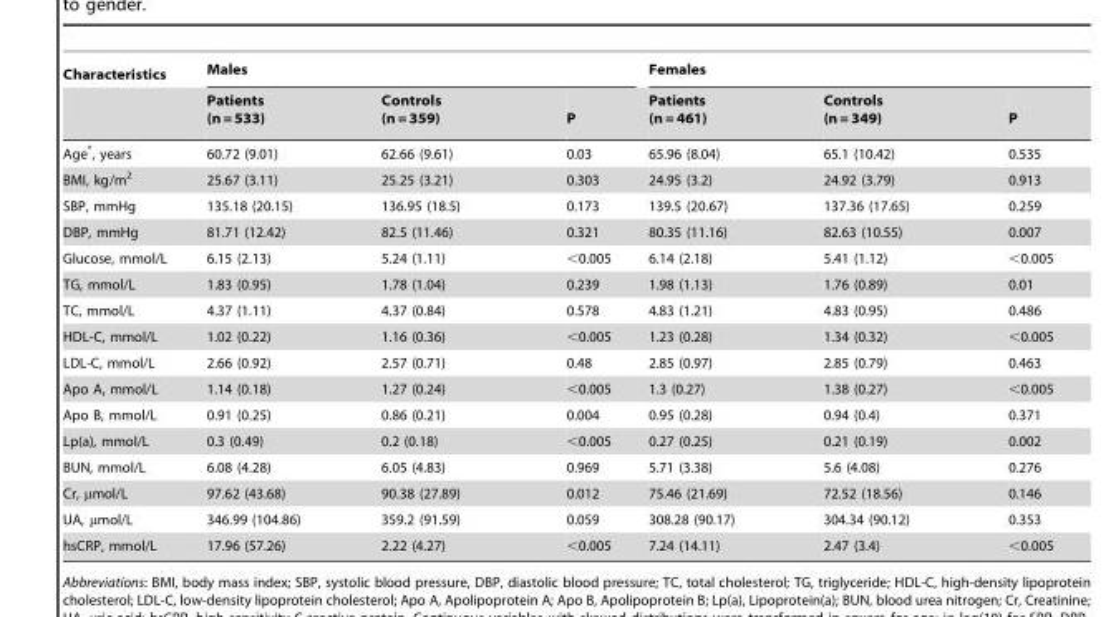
<table><thead><tr><td rowspan="2">Characteristics</td><td colspan="3">Males</td><td colspan="3">Females</td></tr><tr><td>Patients (n = 533)</td><td>Controls (n = 359)</td><td>P</td><td>Patients (n = 461)</td><td>Controls (n = 349)</td><td>P</td></tr></thead><tbody><tr><td>Age*, years</td><td>60.72 (9.01)</td><td>62.66 (9.61)</td><td>0.03</td><td>65.96 (8.04)</td><td>65.1 (10.42)</td><td>0.535</td></tr><tr><td>BMI, kg/m<sup>2</sup></td><td>25.67 (3.11)</td><td>25.25 (3.21)</td><td>0.303</td><td>24.95 (3.2)</td><td>24.92 (3.79)</td><td>0.913</td></tr><tr><td>SBP, mmHg</td><td>135.18 (20.15)</td><td>136.95 (18.5)</td><td>0.173</td><td>139.5 (20.67)</td><td>137.36 (17.65)</td><td>0.259</td></tr><tr><td>DBP, mmHg</td><td>81.71 (12.42)</td><td>82.5 (11.46)</td><td>0.321</td><td>80.35 (11.16)</td><td>82.63 (10.55)</td><td>0.007</td></tr><tr><td>Glucose, mmol/L</td><td>6.15 (2.13)</td><td>5.24 (1.11)</td><td>&lt;0.005</td><td>6.14 (2.18)</td><td>5.41 (1.12)</td><td>&lt;0.005</td></tr><tr><td>TG, mmol/L</td><td>1.83 (0.95)</td><td>1.78 (1.04)</td><td>0.239</td><td>1.98 (1.13)</td><td>1.76 (0.89)</td><td>0.01</td></tr><tr><td>TC, mmol/L</td><td>4.37 (1.11)</td><td>4.37 (0.84)</td><td>0.578</td><td>4.83 (1.21)</td><td>4.83 (0.95)</td><td>0.486</td></tr><tr><td>HDL-C, mmol/L</td><td>1.02 (0.22)</td><td>1.16 (0.36)</td><td>&lt;0.005</td><td>1.23 (0.28)</td><td>1.34 (0.32)</td><td>&lt;0.005</td></tr><tr><td>LDL-C, mmol/L</td><td>2.66 (0.92)</td><td>2.57 (0.71)</td><td>0.48</td><td>2.85 (0.97)</td><td>2.85 (0.79)</td><td>0.463</td></tr><tr><td>Apo A, mmol/L</td><td>1.14 (0.18)</td><td>1.27 (0.24)</td><td>&lt;0.005</td><td>1.3 (0.27)</td><td>1.38 (0.27)</td><td>&lt;0.005</td></tr><tr><td>Apo B, mmol/L</td><td>0.91 (0.25)</td><td>0.86 (0.21)</td><td>0.004</td><td>0.95 (0.28)</td><td>0.94 (0.4)</td><td>0.371</td></tr><tr><td>Lp(a), mmol/L</td><td>0.3 (0.49)</td><td>0.2 (0.18)</td><td>&lt;0.005</td><td>0.27 (0.25)</td><td>0.21 (0.19)</td><td>0.002</td></tr><tr><td>BUN, mmol/L</td><td>6.08 (4.28)</td><td>6.05 (4.83)</td><td>0.969</td><td>5.71 (3.38)</td><td>5.6 (4.08)</td><td>0.276</td></tr><tr><td>Cr, μmol/L</td><td>97.62 (43.68)</td><td>90.38 (27.89)</td><td>0.012</td><td>75.46 (21.69)</td><td>72.52 (18.56)</td><td>0.146</td></tr><tr><td>UA, μmol/L</td><td>346.99 (104.86)</td><td>359.2 (91.59)</td><td>0.059</td><td>308.28 (90.17)</td><td>304.34 (90.12)</td><td>0.353</td></tr><tr><td>hsCRP, mmol/L</td><td>17.96 (57.26)</td><td>2.22 (4.27)</td><td>&lt;0.005</td><td>7.24 (14.11)</td><td>2.47 (3.4)</td><td>&lt;0.005</td></tr></tbody></table>